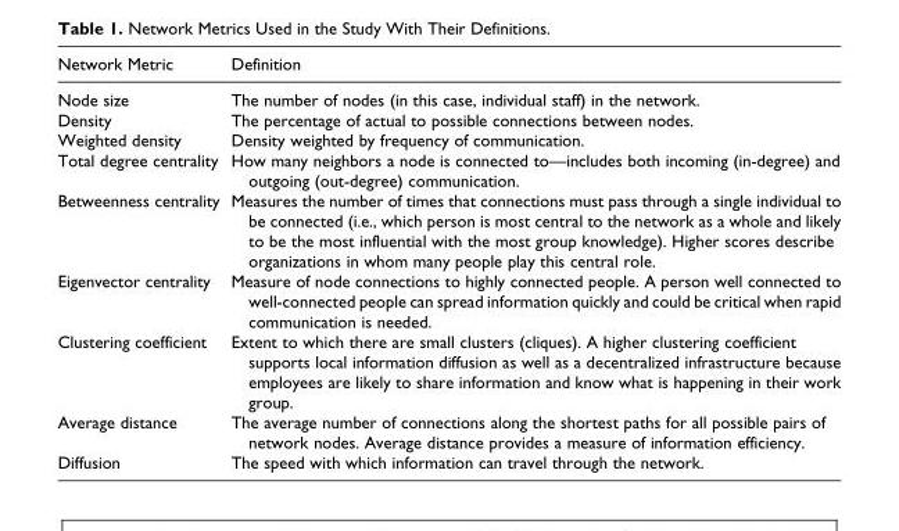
<table><thead><tr><td>Network Metric</td><td>Definition</td></tr></thead><tbody><tr><td>Node size</td><td>The number of nodes (in this case, individual staff) in the network.</td></tr><tr><td>Density</td><td>The percentage of actual to possible connections between nodes.</td></tr><tr><td>Weighted density</td><td>Density weighted by frequency of communication.</td></tr><tr><td>Total degree centrality</td><td>How many neighbors a node is connected to—includes both incoming (in-degree) and outgoing (out-degree) communication.</td></tr><tr><td>Betweenness centrality</td><td>Measures the number of times that connections must pass through a single individual to be connected (i.e., which person is most central to the network as a whole and likely to be the most influential with the most group knowledge). Higher scores describe organizations in whom many people play this central role.</td></tr><tr><td>Eigenvector centrality</td><td>Measure of node connections to highly connected people. A person well connected to well-connected people can spread information quickly and could be critical when rapid communication is needed.</td></tr><tr><td>Clustering coefficient</td><td>Extent to which there are small clusters (cliques). A higher clustering coefficient supports local information diffusion as well as a decentralized infrastructure because employees are likely to share information and know what is happening in their work group.</td></tr><tr><td>Average distance</td><td>The average number of connections along the shortest paths for all possible pairs of network nodes. Average distance provides a measure of information efficiency.</td></tr><tr><td>Diffusion</td><td>The speed with which information can travel through the network.</td></tr></tbody></table>